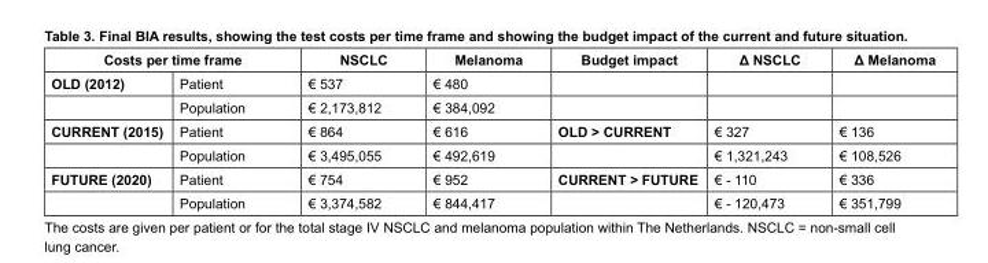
<table><thead><tr><td colspan="2">Costs per time frame</td><td rowspan="2">NSCLC € 537</td><td rowspan="2">Melanoma € 480</td><td rowspan="2">Budget impact</td><td rowspan="2">Δ NSCLC</td><td rowspan="2">Δ Melanoma</td></tr><tr><td>OLD (2012)</td><td>Patient</td></tr></thead><tbody><tr><td></td><td>Population</td><td>€ 2,173,812</td><td>€ 384,092</td><td></td><td></td><td></td></tr><tr><td rowspan="2">CURRENT (2015)</td><td>Patient</td><td>€ 864</td><td>€ 616</td><td>OLD &gt; CURRENT</td><td>€ 327</td><td>€ 136</td></tr><tr><td>Population</td><td>€ 3,495,055</td><td>€ 492,619</td><td></td><td>€ 1,321,243</td><td>€ 108,526</td></tr><tr><td rowspan="2">FUTURE (2020)</td><td>Patient</td><td>€ 754</td><td>€ 952</td><td>CURRENT &gt; FUTURE</td><td>€ - 110</td><td>€ 336</td></tr><tr><td>Population</td><td>€ 3,374,582</td><td>€ 844,417</td><td></td><td>€ - 120,473</td><td>€ 351,799</td></tr></tbody></table>